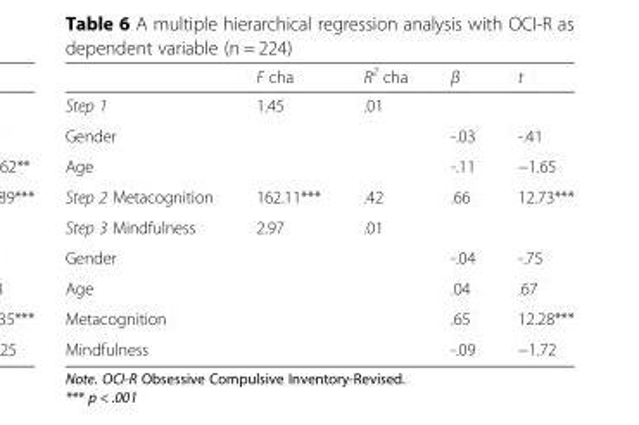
<table><thead><tr><td></td><td>F cha</td><td>R<sup>2</sup> cha</td><td>β</td><td>t</td></tr></thead><tbody><tr><td>Step 1</td><td>1.45</td><td>.01</td><td></td><td></td></tr><tr><td>Gender</td><td></td><td></td><td>-.03</td><td>-.41</td></tr><tr><td>Age</td><td></td><td></td><td>-.11</td><td>−1.65</td></tr><tr><td>Step 2 Metacognition</td><td>162.11***</td><td>.42</td><td>.66</td><td>12.73***</td></tr><tr><td>Step 3 Mindfulness</td><td>2.97</td><td>.01</td><td></td><td></td></tr><tr><td>Gender</td><td></td><td></td><td>-.04</td><td>-.75</td></tr><tr><td>Age</td><td></td><td></td><td>.04</td><td>.67</td></tr><tr><td>Metacognition</td><td></td><td></td><td>.65</td><td>12.28***</td></tr><tr><td>Mindfulness</td><td></td><td></td><td>-.09</td><td>−1.72</td></tr></tbody></table>